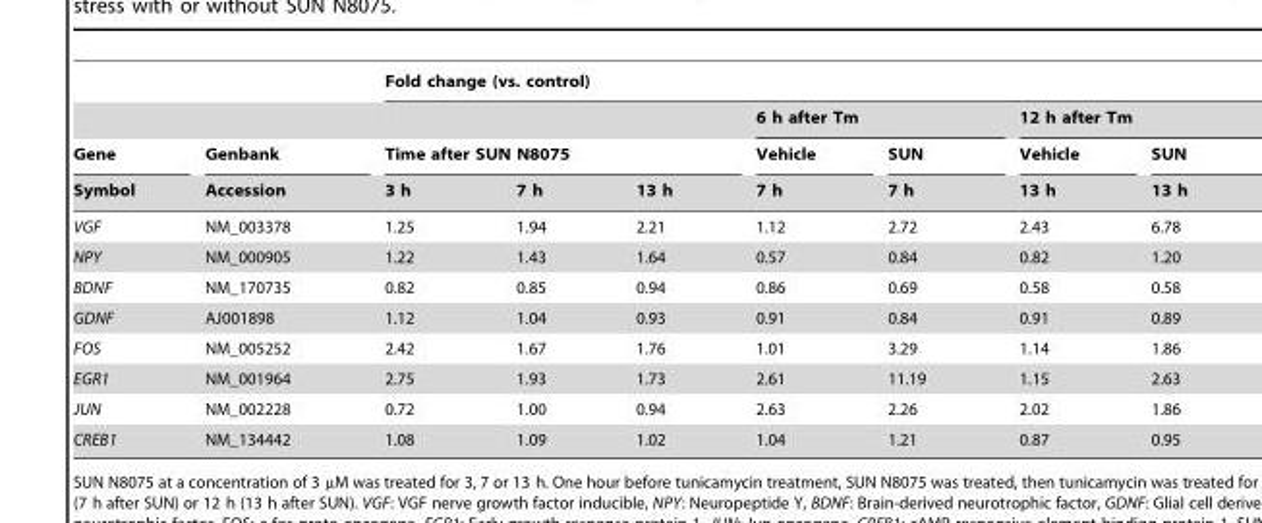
<table><thead><tr><td rowspan="4">Gene Symbol</td><td rowspan="4">Genbank Accession</td><td colspan="7">Fold change (vs. control)</td></tr><tr><td></td><td></td><td></td><td colspan="2">6 h after Tm</td><td colspan="2">12 h after Tm</td></tr><tr><td colspan="3">Time after SUN N8075</td><td rowspan="2">Vehicle 7 h</td><td rowspan="2">SUN 7 h</td><td rowspan="2">Vehicle 13 h</td><td rowspan="2">SUN 13 h</td></tr><tr><td>3 h</td><td>7 h</td><td>13 h</td></tr></thead><tbody><tr><td>VGF</td><td>NM_003378</td><td>1.25</td><td>1.94</td><td>2.21</td><td>1.12</td><td>2.72</td><td>2.43</td><td>6.78</td></tr><tr><td>NPY</td><td>NM_000905</td><td>1.22</td><td>1.43</td><td>1.64</td><td>0.57</td><td>0.84</td><td>0.82</td><td>1.20</td></tr><tr><td>BDNF</td><td>NM_170735</td><td>0.82</td><td>0.85</td><td>0.94</td><td>0.86</td><td>0.69</td><td>0.58</td><td>0.58</td></tr><tr><td>GDNF</td><td>AJ001898</td><td>1.12</td><td>1.04</td><td>0.93</td><td>0.91</td><td>0.84</td><td>0.91</td><td>0.89</td></tr><tr><td>FOS</td><td>NM_005252</td><td>2.42</td><td>1.67</td><td>1.76</td><td>1.01</td><td>3.29</td><td>1.14</td><td>1.86</td></tr><tr><td>EGR1</td><td>NM_001964</td><td>2.75</td><td>1.93</td><td>1.73</td><td>2.61</td><td>11.19</td><td>1.15</td><td>2.63</td></tr><tr><td>JUN</td><td>NM_002228</td><td>0.72</td><td>1.00</td><td>0.94</td><td>2.63</td><td>2.26</td><td>2.02</td><td>1.86</td></tr><tr><td>CREB1</td><td>NM_134442</td><td>1.08</td><td>1.09</td><td>1.02</td><td>1.04</td><td>1.21</td><td>0.87</td><td>0.95</td></tr></tbody></table>